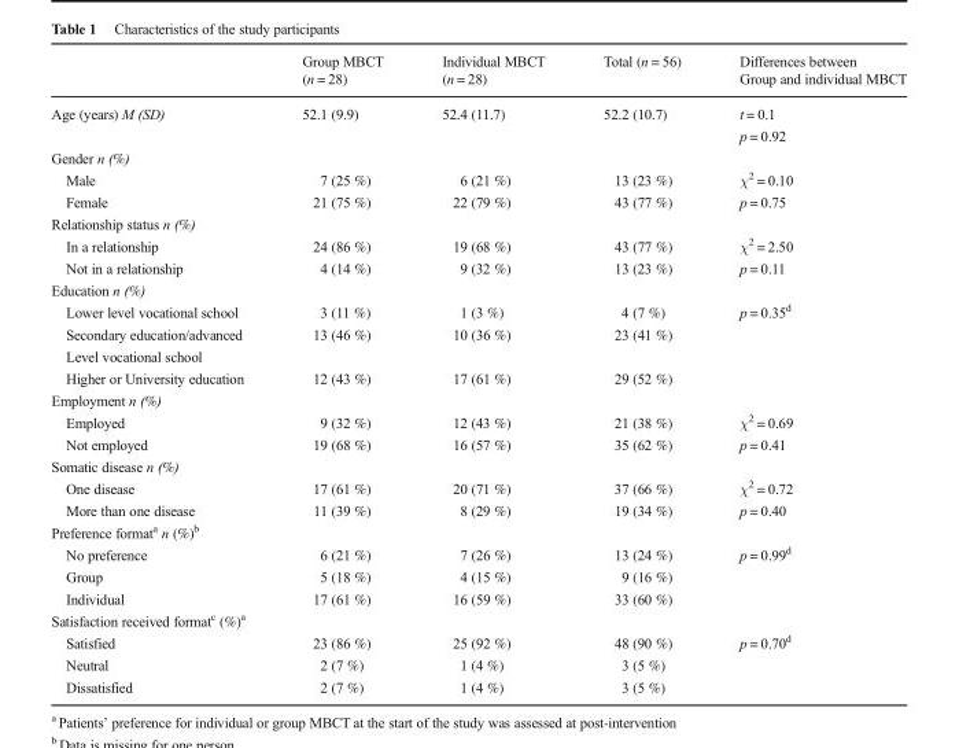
<table><thead><tr><td rowspan="2"></td><td rowspan="2">Group MBCT (n = 28)</td><td rowspan="2">Individual MBCT (n = 28)</td><td rowspan="2">Total (n = 56)</td><td rowspan="2">Differences between Group and individual MBCT</td></tr><tr></tr></thead><tbody><tr><td rowspan="2">Age (years) M (SD)</td><td rowspan="2">52.1 (9.9)</td><td rowspan="2">52.4 (11.7)</td><td rowspan="2">52.2 (10.7)</td><td>t = 0.1</td></tr><tr><td>p = 0.92</td></tr><tr><td colspan="5">Gender n (%)</td></tr><tr><td>Male</td><td>7 (25 %)</td><td>6 (21 %)</td><td>13 (23 %)</td><td>χ<sup>2</sup> = 0.10</td></tr><tr><td>Female</td><td>21 (75 %)</td><td>22 (79 %)</td><td>43 (77 %)</td><td>p = 0.75</td></tr><tr><td colspan="5">Relationship status n (%)</td></tr><tr><td>In a relationship</td><td>24 (86 %)</td><td>19 (68 %)</td><td>43 (77 %)</td><td>χ<sup>2</sup> = 2.50</td></tr><tr><td>Not in a relationship</td><td>4 (14 %)</td><td>9 (32 %)</td><td>13 (23 %)</td><td>p = 0.11</td></tr><tr><td colspan="5">Education n (%)</td></tr><tr><td>Lower level vocational school</td><td>3 (11 %)</td><td>1 (3 %)</td><td>4 (7 %)</td><td>p = 0.35<sup>d</sup></td></tr><tr><td>Secondary education/advanced</td><td>13 (46 %)</td><td>10 (36 %)</td><td>23 (41 %)</td><td></td></tr><tr><td colspan="5">Level vocational school</td></tr><tr><td>Higher or University education</td><td>12 (43 %)</td><td>17 (61 %)</td><td>29 (52 %)</td><td></td></tr><tr><td colspan="5">Employment n (%)</td></tr><tr><td>Employed</td><td>9 (32 %)</td><td>12 (43 %)</td><td>21 (38 %)</td><td>χ<sup>2</sup> = 0.69</td></tr><tr><td>Not employed</td><td>19 (68 %)</td><td>16 (57 %)</td><td>35 (62 %)</td><td>p = 0.41</td></tr><tr><td colspan="5">Somatic disease n (%)</td></tr><tr><td>One disease</td><td>17 (61 %)</td><td>20 (71 %)</td><td>37 (66 %)</td><td>χ<sup>2</sup> = 0.72</td></tr><tr><td>More than one disease</td><td>11 (39 %)</td><td>8 (29 %)</td><td>19 (34 %)</td><td>p = 0.40</td></tr><tr><td colspan="5">Preference format<sup>a</sup> n (%)<sup>b</sup></td></tr><tr><td>No preference</td><td>6 (21 %)</td><td>7 (26 %)</td><td>13 (24 %)</td><td>p = 0.99<sup>d</sup></td></tr><tr><td>Group</td><td>5 (18 %)</td><td>4 (15 %)</td><td>9 (16 %)</td><td></td></tr><tr><td>Individual</td><td>17 (61 %)</td><td>16 (59 %)</td><td>33 (60 %)</td><td></td></tr><tr><td colspan="5">Satisfaction received format<sup>c</sup> (%)<sup>a</sup></td></tr><tr><td>Satisfied</td><td>23 (86 %)</td><td>25 (92 %)</td><td>48 (90 %)</td><td>p = 0.70<sup>d</sup></td></tr><tr><td>Neutral</td><td>2 (7 %)</td><td>1 (4 %)</td><td>3 (5 %)</td><td></td></tr><tr><td>Dissatisfied</td><td>2 (7 %)</td><td>1 (4 %)</td><td>3 (5 %)</td><td></td></tr></tbody></table>